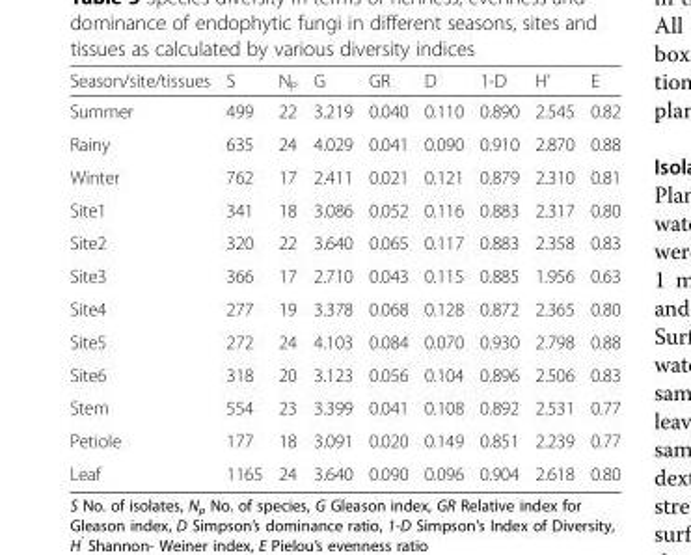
<table><thead><tr><td>Season/site/tissues</td><td>S</td><td>N<sub>P</sub></td><td>G</td><td>GR</td><td>D</td><td>1-D</td><td>H’</td><td>E</td></tr></thead><tbody><tr><td>Summer</td><td>499</td><td>22</td><td>3.219</td><td>0.040</td><td>0.110</td><td>0.890</td><td>2.545</td><td>0.82</td></tr><tr><td>Rainy</td><td>635</td><td>24</td><td>4.029</td><td>0.041</td><td>0.090</td><td>0.910</td><td>2.870</td><td>0.88</td></tr><tr><td>Winter</td><td>762</td><td>17</td><td>2.411</td><td>0.021</td><td>0.121</td><td>0.879</td><td>2.310</td><td>0.81</td></tr><tr><td>Site1</td><td>341</td><td>18</td><td>3.086</td><td>0.052</td><td>0.116</td><td>0.883</td><td>2.317</td><td>0.80</td></tr><tr><td>Site2</td><td>320</td><td>22</td><td>3.640</td><td>0.065</td><td>0.117</td><td>0.883</td><td>2.358</td><td>0.83</td></tr><tr><td>Site3</td><td>366</td><td>17</td><td>2.710</td><td>0.043</td><td>0.115</td><td>0.885</td><td>1.956</td><td>0.63</td></tr><tr><td>Site4</td><td>277</td><td>19</td><td>3.378</td><td>0.068</td><td>0.128</td><td>0.872</td><td>2.365</td><td>0.80</td></tr><tr><td>Site5</td><td>272</td><td>24</td><td>4.103</td><td>0.084</td><td>0.070</td><td>0.930</td><td>2.798</td><td>0.88</td></tr><tr><td>Site6</td><td>318</td><td>20</td><td>3.123</td><td>0.056</td><td>0.104</td><td>0.896</td><td>2.506</td><td>0.83</td></tr><tr><td>Stem</td><td>554</td><td>23</td><td>3.399</td><td>0.041</td><td>0.108</td><td>0.892</td><td>2.531</td><td>0.77</td></tr><tr><td>Petiole</td><td>177</td><td>18</td><td>3.091</td><td>0.020</td><td>0.149</td><td>0.851</td><td>2.239</td><td>0.77</td></tr><tr><td>Leaf</td><td>1165</td><td>24</td><td>3.640</td><td>0.090</td><td>0.096</td><td>0.904</td><td>2.618</td><td>0.80</td></tr></tbody></table>